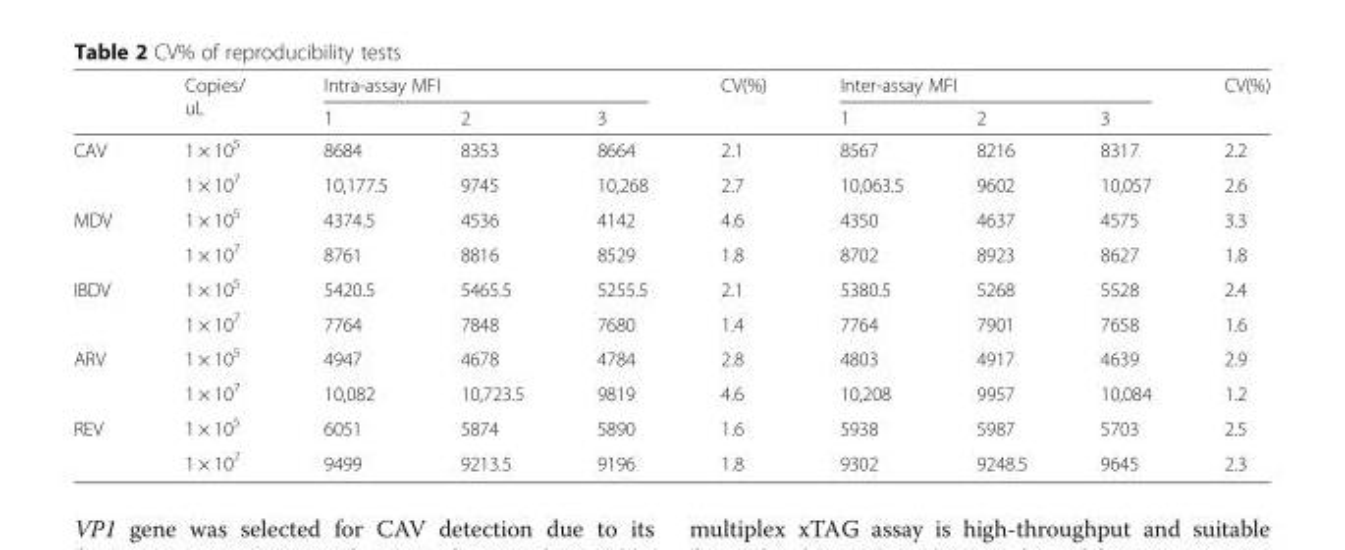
<table><thead><tr><td rowspan="2"></td><td rowspan="2">Copies/ uL</td><td colspan="3">Intra-assay MFI</td><td rowspan="2">CV(%)</td><td colspan="3">Inter-assay MFI</td><td rowspan="2">CV(%)</td></tr><tr><td>1</td><td>2</td><td>3</td><td>1</td><td>2</td><td>3</td></tr></thead><tbody><tr><td rowspan="2">CAV</td><td>1 × 10<sup>5</sup></td><td>8684</td><td>8353</td><td>8664</td><td>2.1</td><td>8567</td><td>8216</td><td>8317</td><td>2.2</td></tr><tr><td>1 × 10<sup>7</sup></td><td>10,177.5</td><td>9745</td><td>10,268</td><td>2.7</td><td>10,063.5</td><td>9602</td><td>10,057</td><td>2.6</td></tr><tr><td rowspan="2">MDV</td><td>1 × 10<sup>5</sup></td><td>4374.5</td><td>4536</td><td>4142</td><td>4.6</td><td>4350</td><td>4637</td><td>4575</td><td>3.3</td></tr><tr><td>1 × 10<sup>7</sup></td><td>8761</td><td>8816</td><td>8529</td><td>1.8</td><td>8702</td><td>8923</td><td>8627</td><td>1.8</td></tr><tr><td rowspan="2">IBDV</td><td>1 × 10<sup>5</sup></td><td>5420.5</td><td>5465.5</td><td>5255.5</td><td>2.1</td><td>5380.5</td><td>5268</td><td>5528</td><td>2.4</td></tr><tr><td>1 × 10<sup>7</sup></td><td>7764</td><td>7848</td><td>7680</td><td>1.4</td><td>7764</td><td>7901</td><td>7658</td><td>1.6</td></tr><tr><td rowspan="2">ARV</td><td>1 × 10<sup>5</sup></td><td>4947</td><td>4678</td><td>4784</td><td>2.8</td><td>4803</td><td>4917</td><td>4639</td><td>2.9</td></tr><tr><td>1 × 10<sup>7</sup></td><td>10,082</td><td>10,723.5</td><td>9819</td><td>4.6</td><td>10,208</td><td>9957</td><td>10,084</td><td>1.2</td></tr><tr><td rowspan="2">REV</td><td>1 × 10<sup>5</sup></td><td>6051</td><td>5874</td><td>5890</td><td>1.6</td><td>5938</td><td>5987</td><td>5703</td><td>2.5</td></tr><tr><td>1 × 10<sup>7</sup></td><td>9499</td><td>9213.5</td><td>9196</td><td>1.8</td><td>9302</td><td>9248.5</td><td>9645</td><td>2.3</td></tr></tbody></table>